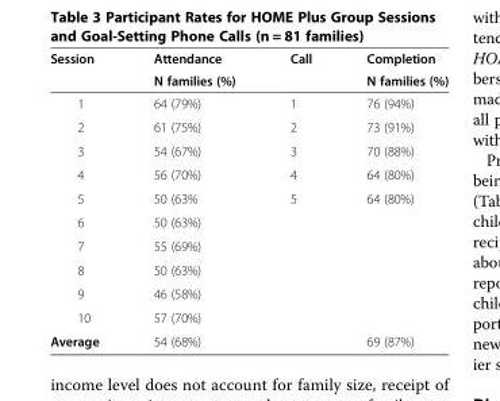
<table><thead><tr><td rowspan="2">Session</td><td rowspan="2">Attendance N families (%)</td><td rowspan="2">Call</td><td rowspan="2">Completion N families (%)</td></tr><tr></tr></thead><tbody><tr><td>1</td><td>64 (79%)</td><td>1</td><td>76 (94%)</td></tr><tr><td>2</td><td>61 (75%)</td><td>2</td><td>73 (91%)</td></tr><tr><td>3</td><td>54 (67%)</td><td>3</td><td>70 (88%)</td></tr><tr><td>4</td><td>56 (70%)</td><td>4</td><td>64 (80%)</td></tr><tr><td>5</td><td>50 (63%</td><td>5</td><td>64 (80%)</td></tr><tr><td>6</td><td>50 (63%)</td><td></td><td></td></tr><tr><td>7</td><td>55 (69%)</td><td></td><td></td></tr><tr><td>8</td><td>50 (63%)</td><td></td><td></td></tr><tr><td>9</td><td>46 (58%)</td><td></td><td></td></tr><tr><td>10</td><td>57 (70%)</td><td></td><td></td></tr><tr><td>Average</td><td>54 (68%)</td><td></td><td>69 (87%)</td></tr></tbody></table>